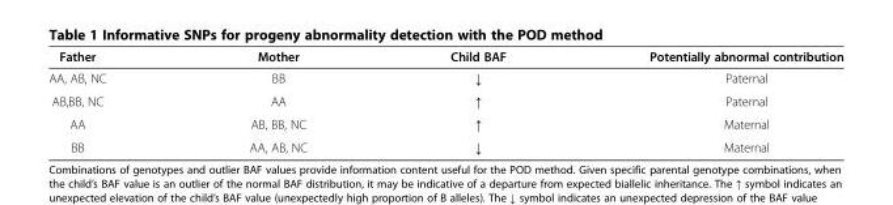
<table><thead><tr><td>Father</td><td>Mother</td><td>Child BAF</td><td>Potentially abnormal contribution</td></tr></thead><tbody><tr><td>AA, AB, NC</td><td>BB</td><td>↓</td><td>Paternal</td></tr><tr><td>AB,BB, NC</td><td>AA</td><td>↑</td><td>Paternal</td></tr><tr><td>AA</td><td>AB, BB, NC</td><td>↑</td><td>Maternal</td></tr><tr><td>BB</td><td>AA, AB, NC</td><td>↓</td><td>Maternal</td></tr></tbody></table>